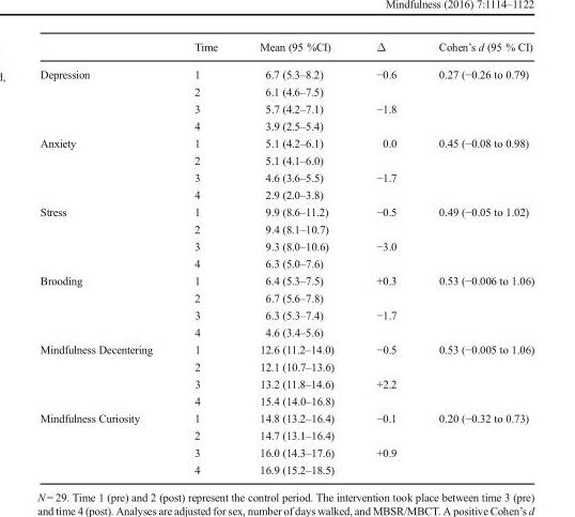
<table><thead><tr><td></td><td>Time</td><td>Mean (95 %CI)</td><td>Δ</td><td>Cohen’s d (95 % CI)</td></tr></thead><tbody><tr><td rowspan="4">Depression</td><td>1</td><td>6.7 (5.3–8.2)</td><td>−0.6</td><td>0.27 (−0.26 to 0.79)</td></tr><tr><td>2</td><td>6.1 (4.6–7.5)</td><td></td><td></td></tr><tr><td>3</td><td>5.7 (4.2–7.1)</td><td>−1.8</td><td></td></tr><tr><td>4</td><td>3.9 (2.5–5.4)</td><td></td><td></td></tr><tr><td rowspan="4">Anxiety</td><td>1</td><td>5.1 (4.2–6.1)</td><td>0.0</td><td>0.45 (−0.08 to 0.98)</td></tr><tr><td>2</td><td>5.1 (4.1–6.0)</td><td></td><td></td></tr><tr><td>3</td><td>4.6 (3.6–5.5)</td><td>−1.7</td><td></td></tr><tr><td>4</td><td>2.9 (2.0–3.8)</td><td></td><td></td></tr><tr><td rowspan="4">Stress</td><td>1</td><td>9.9 (8.6–11.2)</td><td>−0.5</td><td>0.49 (−0.05 to 1.02)</td></tr><tr><td>2</td><td>9.4 (8.1–10.7)</td><td></td><td></td></tr><tr><td>3</td><td>9.3 (8.0–10.6)</td><td>−3.0</td><td></td></tr><tr><td>4</td><td>6.3 (5.0–7.6)</td><td></td><td></td></tr><tr><td rowspan="4">Brooding</td><td>1</td><td>6.4 (5.3–7.5)</td><td>+0.3</td><td>0.53 (−0.006 to 1.06)</td></tr><tr><td>2</td><td>6.7 (5.6–7.8)</td><td></td><td></td></tr><tr><td>3</td><td>6.3 (5.3–7.4)</td><td>−1.7</td><td></td></tr><tr><td>4</td><td>4.6 (3.4–5.6)</td><td></td><td></td></tr><tr><td rowspan="4">Mindfulness Decentering</td><td>1</td><td>12.6 (11.2–14.0)</td><td>−0.5</td><td>0.53 (−0.005 to 1.06)</td></tr><tr><td>2</td><td>12.1 (10.7–13.6)</td><td></td><td></td></tr><tr><td>3</td><td>13.2 (11.8–14.6)</td><td>+2.2</td><td></td></tr><tr><td>4</td><td>15.4 (14.0–16.8)</td><td></td><td></td></tr><tr><td rowspan="4">Mindfulness Curiosity</td><td>1</td><td>14.8 (13.2–16.4)</td><td>−0.1</td><td>0.20 (−0.32 to 0.73)</td></tr><tr><td>2</td><td>14.7 (13.1–16.4)</td><td></td><td></td></tr><tr><td>3</td><td>16.0 (14.3–17.6)</td><td>+0.9</td><td></td></tr><tr><td>4</td><td>16.9 (15.2–18.5)</td><td></td><td></td></tr></tbody></table>